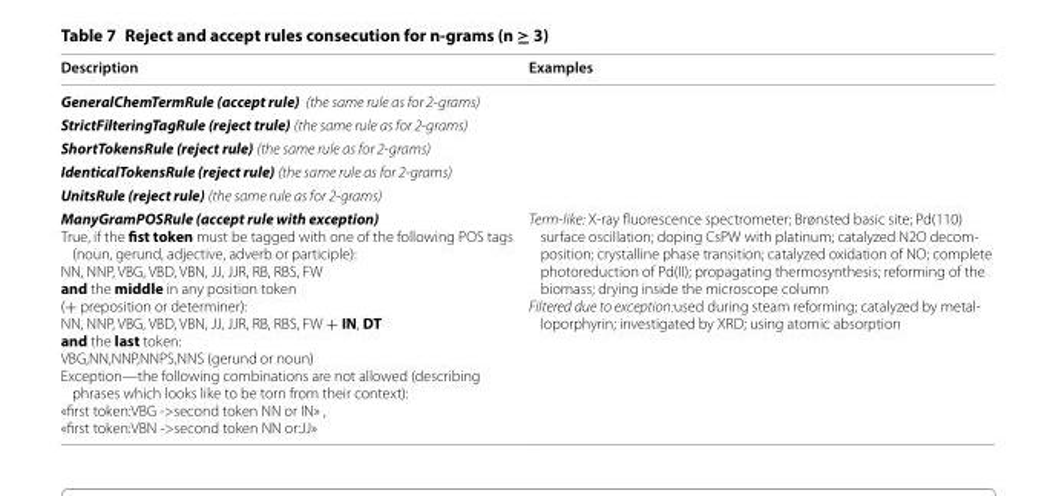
<table><thead><tr><td>Description</td><td>Examples</td></tr></thead><tbody><tr><td colspan="2">GeneralChemTermRule (accept rule) (the same rule as for 2-grams)</td></tr><tr><td colspan="2">StrictFilteringTagRule (reject trule) (the same rule as for 2-grams)</td></tr><tr><td colspan="2">ShortTokensRule (reject rule) (the same rule as for 2-grams)</td></tr><tr><td colspan="2">IdenticalTokensRule (reject rule) (the same rule as for 2-grams)</td></tr><tr><td colspan="2">UnitsRule (reject rule) (the same rule as for 2-grams)</td></tr><tr><td>ManyGramPOSRule (accept rule with exception) True, if the fist token must be tagged with one of the following POS tags (noun, gerund, adjective, adverb or participle): NN, NNP, VBG, VBD, VBN, JJ, JJR, RB, RBS, FW and the middle in any position token (+ preposition or determiner): NN, NNP, VBG, VBD, VBN, JJ, JJR, RB, RBS, FW + IN, DT and the last token: VBG,NN,NNP,NNPS,NNS (gerund or noun) Exception—the following combinations are not allowed (describing phrases which looks like to be torn from their context): «first token:VBG -&gt;second token NN or IN» , «first token:VBN -&gt;second token NN or:JJ»</td><td>Term-like: X-ray fluorescence spectrometer; Brønsted basic site; Pd(110) surface oscillation; doping CsPW with platinum; catalyzed N2O decom- position; crystalline phase transition; catalyzed oxidation of NO; complete photoreduction of Pd(II); propagating thermosynthesis; reforming of the biomass; drying inside the microscope column Filtered due to exception:used during steam reforming; catalyzed by metal- loporphyrin; investigated by XRD; using atomic absorption</td></tr></tbody></table>